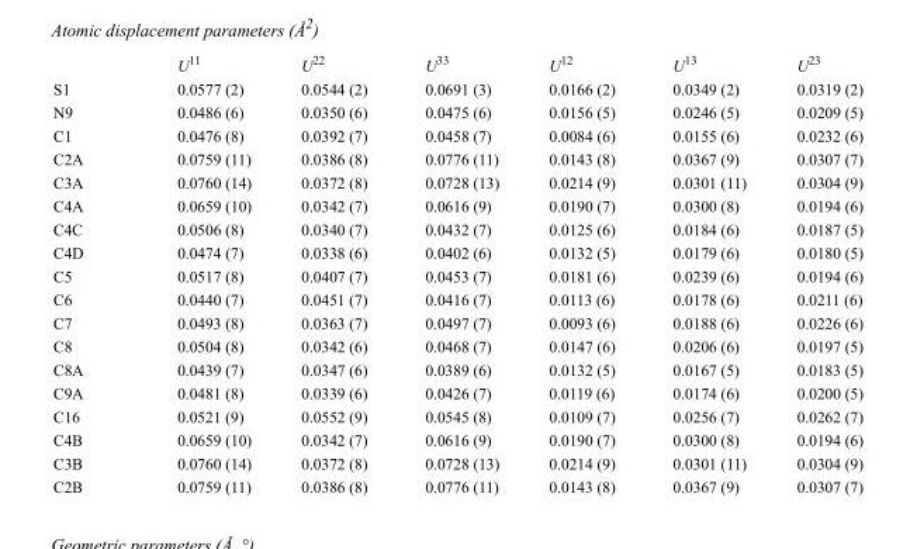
<table><thead><tr><td></td><td>U<sup>11</sup></td><td>U<sup>22</sup></td><td>U<sup>33</sup></td><td>U<sup>12</sup></td><td>U<sup>13</sup></td><td>U<sup>23</sup></td></tr></thead><tbody><tr><td>S1</td><td>0.0577 (2)</td><td>0.0544 (2)</td><td>0.0691 (3)</td><td>0.0166 (2)</td><td>0.0349 (2)</td><td>0.0319 (2)</td></tr><tr><td>N9</td><td>0.0486 (6)</td><td>0.0350 (6)</td><td>0.0475 (6)</td><td>0.0156 (5)</td><td>0.0246 (5)</td><td>0.0209 (5)</td></tr><tr><td>C1</td><td>0.0476 (8)</td><td>0.0392 (7)</td><td>0.0458 (7)</td><td>0.0084 (6)</td><td>0.0155 (6)</td><td>0.0232 (6)</td></tr><tr><td>C2A</td><td>0.0759 (11)</td><td>0.0386 (8)</td><td>0.0776 (11)</td><td>0.0143 (8)</td><td>0.0367 (9)</td><td>0.0307 (7)</td></tr><tr><td>C3A</td><td>0.0760 (14)</td><td>0.0372 (8)</td><td>0.0728 (13)</td><td>0.0214 (9)</td><td>0.0301 (11)</td><td>0.0304 (9)</td></tr><tr><td>C4A</td><td>0.0659 (10)</td><td>0.0342 (7)</td><td>0.0616 (9)</td><td>0.0190 (7)</td><td>0.0300 (8)</td><td>0.0194 (6)</td></tr><tr><td>C4C</td><td>0.0506 (8)</td><td>0.0340 (7)</td><td>0.0432 (7)</td><td>0.0125 (6)</td><td>0.0184 (6)</td><td>0.0187 (5)</td></tr><tr><td>C4D</td><td>0.0474 (7)</td><td>0.0338 (6)</td><td>0.0402 (6)</td><td>0.0132 (5)</td><td>0.0179 (6)</td><td>0.0180 (5)</td></tr><tr><td>C5</td><td>0.0517 (8)</td><td>0.0407 (7)</td><td>0.0453 (7)</td><td>0.0181 (6)</td><td>0.0239 (6)</td><td>0.0194 (6)</td></tr><tr><td>C6</td><td>0.0440 (7)</td><td>0.0451 (7)</td><td>0.0416 (7)</td><td>0.0113 (6)</td><td>0.0178 (6)</td><td>0.0211 (6)</td></tr><tr><td>C7</td><td>0.0493 (8)</td><td>0.0363 (7)</td><td>0.0497 (7)</td><td>0.0093 (6)</td><td>0.0188 (6)</td><td>0.0226 (6)</td></tr><tr><td>C8</td><td>0.0504 (8)</td><td>0.0342 (6)</td><td>0.0468 (7)</td><td>0.0147 (6)</td><td>0.0206 (6)</td><td>0.0197 (5)</td></tr><tr><td>C8A</td><td>0.0439 (7)</td><td>0.0347 (6)</td><td>0.0389 (6)</td><td>0.0132 (5)</td><td>0.0167 (5)</td><td>0.0183 (5)</td></tr><tr><td>C9A</td><td>0.0481 (8)</td><td>0.0339 (6)</td><td>0.0426 (7)</td><td>0.0119 (6)</td><td>0.0174 (6)</td><td>0.0200 (5)</td></tr><tr><td>C16</td><td>0.0521 (9)</td><td>0.0552 (9)</td><td>0.0545 (8)</td><td>0.0109 (7)</td><td>0.0256 (7)</td><td>0.0262 (7)</td></tr><tr><td>C4B</td><td>0.0659 (10)</td><td>0.0342 (7)</td><td>0.0616 (9)</td><td>0.0190 (7)</td><td>0.0300 (8)</td><td>0.0194 (6)</td></tr><tr><td>C3B</td><td>0.0760 (14)</td><td>0.0372 (8)</td><td>0.0728 (13)</td><td>0.0214 (9)</td><td>0.0301 (11)</td><td>0.0304 (9)</td></tr><tr><td>C2B</td><td>0.0759 (11)</td><td>0.0386 (8)</td><td>0.0776 (11)</td><td>0.0143 (8)</td><td>0.0367 (9)</td><td>0.0307 (7)</td></tr></tbody></table>